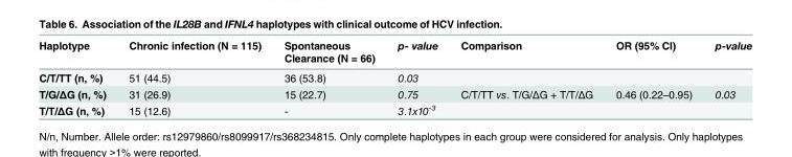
<table><thead><tr><td>Haplotype</td><td>Chronic infection (N = 115)</td><td>Spontaneous Clearance (N = 66)</td><td>p- value</td><td>Comparison</td><td>OR (95% CI)</td><td>p-value</td></tr></thead><tbody><tr><td>C/T/TT (n, %)</td><td>51 (44.5)</td><td>36 (53.8)</td><td>0.03</td><td></td><td></td><td></td></tr><tr><td>T/G/ΔG (n, %)</td><td>31 (26.9)</td><td>15 (22.7)</td><td>0.75</td><td>C/T/TT vs. T/G/ΔG + T/T/ΔG</td><td>0.46 (0.22–0.95)</td><td>0.03</td></tr><tr><td>T/T/ΔG (n, %)</td><td>15 (12.6)</td><td>-</td><td>3.1x10<sup>-3</sup></td><td></td><td></td><td></td></tr></tbody></table>